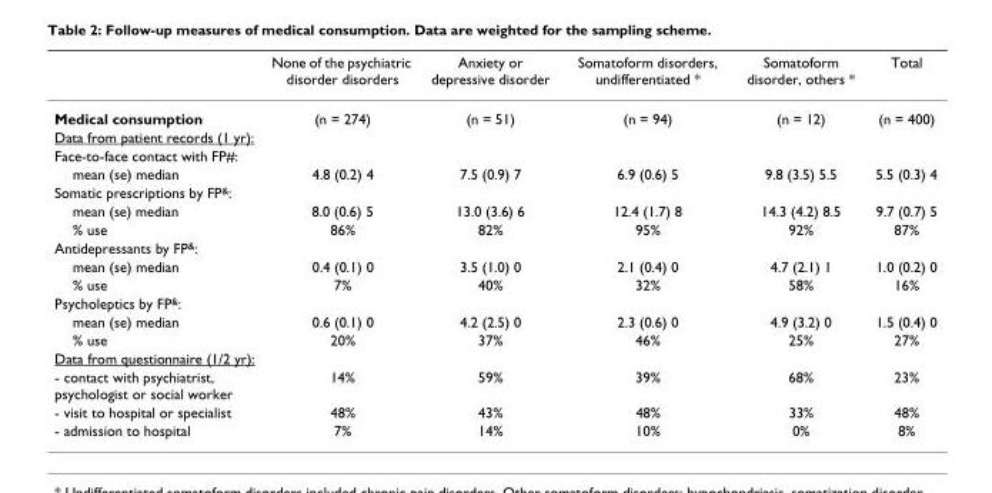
<table><thead><tr><td></td><td>None of the psychiatric disorder disorders</td><td>Anxiety or depressive disorder</td><td>Somatoform disorders, undifferentiated *</td><td>Somatoform disorder, others *</td><td>Total</td></tr></thead><tbody><tr><td>Medical consumption</td><td>(n = 274)</td><td>(n = 51)</td><td>(n = 94)</td><td>(n = 12)</td><td>(n = 400)</td></tr><tr><td colspan="6">Data from patient records (1 yr):</td></tr><tr><td colspan="6">Face-to-face contact with FP#:</td></tr><tr><td>mean (se) median</td><td>4.8 (0.2) 4</td><td>7.5 (0.9) 7</td><td>6.9 (0.6) 5</td><td>9.8 (3.5) 5.5</td><td>5.5 (0.3) 4</td></tr><tr><td colspan="6">Somatic prescriptions by FP<sup>&amp;</sup>:</td></tr><tr><td>mean (se) median</td><td>8.0 (0.6) 5</td><td>13.0 (3.6) 6</td><td>12.4 (1.7) 8</td><td>14.3 (4.2) 8.5</td><td>9.7 (0.7) 5</td></tr><tr><td>% use</td><td>86%</td><td>82%</td><td>95%</td><td>92%</td><td>87%</td></tr><tr><td colspan="6">Antidepressants by FP<sup>&amp;</sup>:</td></tr><tr><td>mean (se) median</td><td>0.4 (0.1) 0</td><td>3.5 (1.0) 0</td><td>2.1 (0.4) 0</td><td>4.7 (2.1) 1</td><td>1.0 (0.2) 0</td></tr><tr><td>% use</td><td>7%</td><td>40%</td><td>32%</td><td>58%</td><td>16%</td></tr><tr><td colspan="6">Psycholeptics by FP<sup>&amp;</sup>:</td></tr><tr><td>mean (se) median</td><td>0.6 (0.1) 0</td><td>4.2 (2.5) 0</td><td>2.3 (0.6) 0</td><td>4.9 (3.2) 0</td><td>1.5 (0.4) 0</td></tr><tr><td>% use</td><td>20%</td><td>37%</td><td>46%</td><td>25%</td><td>27%</td></tr><tr><td colspan="6">Data from questionnaire (1/2 yr):</td></tr><tr><td>- contact with psychiatrist, psychologist or social worker</td><td>14%</td><td>59%</td><td>39%</td><td>68%</td><td>23%</td></tr><tr><td>- visit to hospital or specialist</td><td>48%</td><td>43%</td><td>48%</td><td>33%</td><td>48%</td></tr><tr><td>- admission to hospital</td><td>7%</td><td>14%</td><td>10%</td><td>0%</td><td>8%</td></tr></tbody></table>